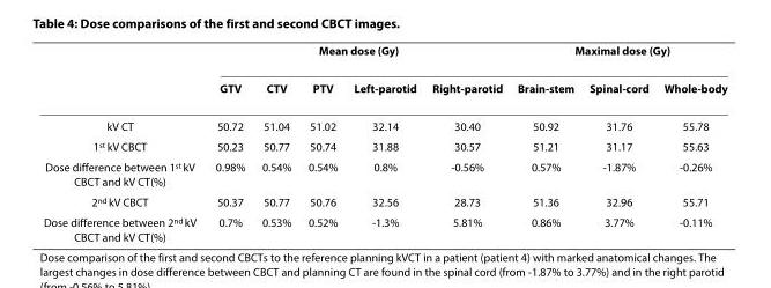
<table><thead><tr><td rowspan="2"></td><td colspan="5">Mean dose (Gy)</td><td colspan="3">Maximal dose (Gy)</td></tr><tr><td>GTV</td><td>CTV</td><td>PTV</td><td>Left-parotid</td><td>Right-parotid</td><td>Brain-stem</td><td>Spinal-cord</td><td>Whole-body</td></tr></thead><tbody><tr><td>kV CT</td><td>50.72</td><td>51.04</td><td>51.02</td><td>32.14</td><td>30.40</td><td>50.92</td><td>31.76</td><td>55.78</td></tr><tr><td>1<sup>st</sup> kV CBCT</td><td>50.23</td><td>50.77</td><td>50.74</td><td>31.88</td><td>30.57</td><td>51.21</td><td>31.17</td><td>55.63</td></tr><tr><td>Dose difference between 1<sup>st</sup> kV CBCT and kV CT(%)</td><td>0.98%</td><td>0.54%</td><td>0.54%</td><td>0.8%</td><td>-0.56%</td><td>0.57%</td><td>-1.87%</td><td>-0.26%</td></tr><tr><td>2<sup>nd</sup> kV CBCT</td><td>50.37</td><td>50.77</td><td>50.76</td><td>32.56</td><td>28.73</td><td>51.36</td><td>32.96</td><td>55.71</td></tr><tr><td>Dose difference between 2<sup>nd</sup> kV CBCT and kV CT(%)</td><td>0.7%</td><td>0.53%</td><td>0.52%</td><td>-1.3%</td><td>5.81%</td><td>0.86%</td><td>3.77%</td><td>-0.11%</td></tr></tbody></table>